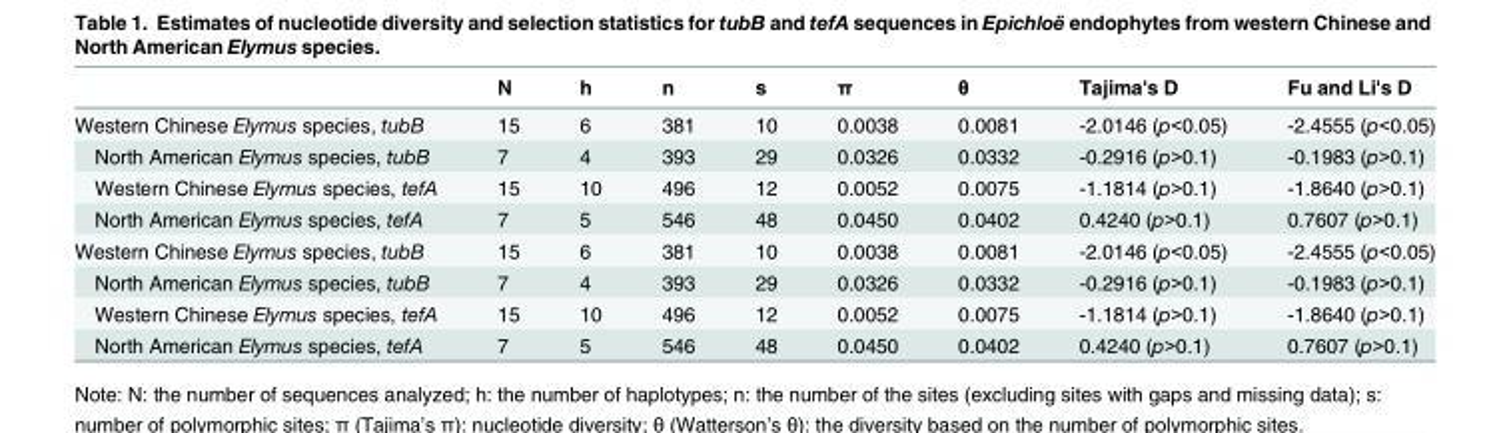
<table><thead><tr><td></td><td>N</td><td>h</td><td>n</td><td>s</td><td>π</td><td>θ</td><td>Tajima&#x27;s D</td><td>Fu and Li&#x27;s D</td></tr></thead><tbody><tr><td>Western Chinese Elymus species, tubB</td><td>15</td><td>6</td><td>381</td><td>10</td><td>0.0038</td><td>0.0081</td><td>-2.0146 (p&lt;0.05)</td><td>-2.4555 (p&lt;0.05)</td></tr><tr><td>North American Elymus species, tubB</td><td>7</td><td>4</td><td>393</td><td>29</td><td>0.0326</td><td>0.0332</td><td>-0.2916 (p&gt;0.1)</td><td>-0.1983 (p&gt;0.1)</td></tr><tr><td>Western Chinese Elymus species, tefA</td><td>15</td><td>10</td><td>496</td><td>12</td><td>0.0052</td><td>0.0075</td><td>-1.1814 (p&gt;0.1)</td><td>-1.8640 (p&gt;0.1)</td></tr><tr><td>North American Elymus species, tefA</td><td>7</td><td>5</td><td>546</td><td>48</td><td>0.0450</td><td>0.0402</td><td>0.4240 (p&gt;0.1)</td><td>0.7607 (p&gt;0.1)</td></tr><tr><td>Western Chinese Elymus species, tubB</td><td>15</td><td>6</td><td>381</td><td>10</td><td>0.0038</td><td>0.0081</td><td>-2.0146 (p&lt;0.05)</td><td>-2.4555 (p&lt;0.05)</td></tr><tr><td>North American Elymus species, tubB</td><td>7</td><td>4</td><td>393</td><td>29</td><td>0.0326</td><td>0.0332</td><td>-0.2916 (p&gt;0.1)</td><td>-0.1983 (p&gt;0.1)</td></tr><tr><td>Western Chinese Elymus species, tefA</td><td>15</td><td>10</td><td>496</td><td>12</td><td>0.0052</td><td>0.0075</td><td>-1.1814 (p&gt;0.1)</td><td>-1.8640 (p&gt;0.1)</td></tr><tr><td>North American Elymus species, tefA</td><td>7</td><td>5</td><td>546</td><td>48</td><td>0.0450</td><td>0.0402</td><td>0.4240 (p&gt;0.1)</td><td>0.7607 (p&gt;0.1)</td></tr></tbody></table>